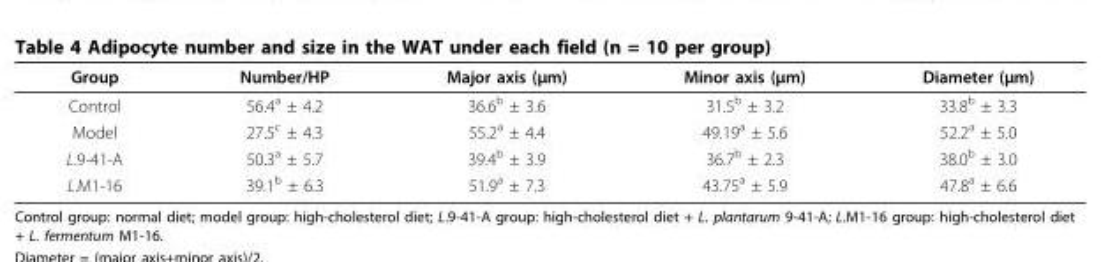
<table><thead><tr><td>Group</td><td>Number/HP</td><td>Major axis (μm)</td><td>Minor axis (μm)</td><td>Diameter (μm)</td></tr></thead><tbody><tr><td>Control</td><td>56.4<sup>a</sup> ± 4.2</td><td>36.6<sup>b</sup> ± 3.6</td><td>31.5<sup>b</sup> ± 3.2</td><td>33.8<sup>b</sup> ± 3.3</td></tr><tr><td>Model</td><td>27.5<sup>c</sup> ± 4.3</td><td>55.2<sup>a</sup> ± 4.4</td><td>49.19<sup>a</sup> ± 5.6</td><td>52.2<sup>a</sup> ± 5.0</td></tr><tr><td>L.9-41-A</td><td>50.3<sup>a</sup> ± 5.7</td><td>39.4<sup>b</sup> ± 3.9</td><td>36.7<sup>b</sup> ± 2.3</td><td>38.0<sup>b</sup> ± 3.0</td></tr><tr><td>L.M1-16</td><td>39.1<sup>b</sup> ± 6.3</td><td>51.9<sup>a</sup> ± 7.3</td><td>43.75<sup>a</sup> ± 5.9</td><td>47.8<sup>a</sup> ± 6.6</td></tr></tbody></table>